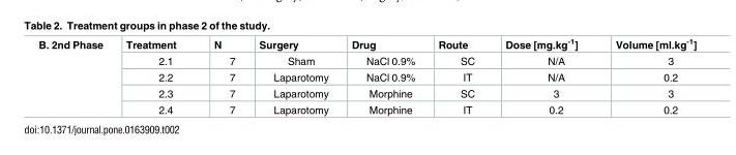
<table><tbody><tr><td rowspan="5">B. 2nd Phase</td><td>Treatment</td><td>N</td><td>Surgery</td><td>Drug</td><td>Route</td><td>Dose [mg.kg<sup>-1</sup>]</td><td>Volume [ml.kg<sup>-1</sup>]</td></tr><tr><td>2.1</td><td>7</td><td>Sham</td><td>NaCl 0.9%</td><td>SC</td><td>N/A</td><td>3</td></tr><tr><td>2.2</td><td>7</td><td>Laparotomy</td><td>NaCl 0.9%</td><td>IT</td><td>N/A</td><td>0.2</td></tr><tr><td>2.3</td><td>7</td><td>Laparotomy</td><td>Morphine</td><td>SC</td><td>3</td><td>3</td></tr><tr><td>2.4</td><td>7</td><td>Laparotomy</td><td>Morphine</td><td>IT</td><td>0.2</td><td>0.2</td></tr></tbody></table>